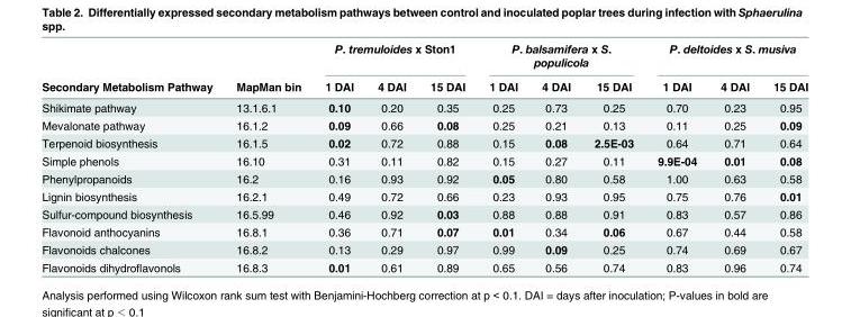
<table><thead><tr><td rowspan="2">Secondary Metabolism Pathway</td><td rowspan="2">MapMan bin</td><td colspan="3">P. tremuloides x Ston1</td><td colspan="3">P. balsamifera x S. populicola</td><td colspan="3">P. deltoides x S. musiva</td></tr><tr><td>1 DAI</td><td>4 DAI</td><td>15 DAI</td><td>1 DAI</td><td>4 DAI</td><td>15 DAI</td><td>1 DAI</td><td>4 DAI</td><td>15 DAI</td></tr></thead><tbody><tr><td>Shikimate pathway</td><td>13.1.6.1</td><td>0.10</td><td>0.20</td><td>0.35</td><td>0.25</td><td>0.73</td><td>0.25</td><td>0.70</td><td>0.23</td><td>0.95</td></tr><tr><td>Mevalonate pathway</td><td>16.1.2</td><td>0.09</td><td>0.66</td><td>0.08</td><td>0.25</td><td>0.21</td><td>0.13</td><td>0.11</td><td>0.25</td><td>0.09</td></tr><tr><td>Terpenoid biosynthesis</td><td>16.1.5</td><td>0.02</td><td>0.72</td><td>0.88</td><td>0.15</td><td>0.08</td><td>2.5E-03</td><td>0.64</td><td>0.71</td><td>0.64</td></tr><tr><td>Simple phenols</td><td>16.10</td><td>0.31</td><td>0.11</td><td>0.82</td><td>0.15</td><td>0.27</td><td>0.11</td><td>9.9E-04</td><td>0.01</td><td>0.08</td></tr><tr><td>Phenylpropanoids</td><td>16.2</td><td>0.16</td><td>0.93</td><td>0.92</td><td>0.05</td><td>0.80</td><td>0.58</td><td>1.00</td><td>0.63</td><td>0.58</td></tr><tr><td>Lignin biosynthesis</td><td>16.2.1</td><td>0.49</td><td>0.72</td><td>0.66</td><td>0.23</td><td>0.93</td><td>0.95</td><td>0.75</td><td>0.76</td><td>0.01</td></tr><tr><td>Sulfur-compound biosynthesis</td><td>16.5.99</td><td>0.46</td><td>0.92</td><td>0.03</td><td>0.88</td><td>0.88</td><td>0.91</td><td>0.83</td><td>0.57</td><td>0.86</td></tr><tr><td>Flavonoid anthocyanins</td><td>16.8.1</td><td>0.36</td><td>0.71</td><td>0.07</td><td>0.01</td><td>0.34</td><td>0.06</td><td>0.67</td><td>0.44</td><td>0.58</td></tr><tr><td>Flavonoids chalcones</td><td>16.8.2</td><td>0.13</td><td>0.29</td><td>0.97</td><td>0.99</td><td>0.09</td><td>0.25</td><td>0.74</td><td>0.69</td><td>0.67</td></tr><tr><td>Flavonoids dihydroflavonols</td><td>16.8.3</td><td>0.01</td><td>0.61</td><td>0.89</td><td>0.65</td><td>0.56</td><td>0.74</td><td>0.83</td><td>0.96</td><td>0.74</td></tr></tbody></table>